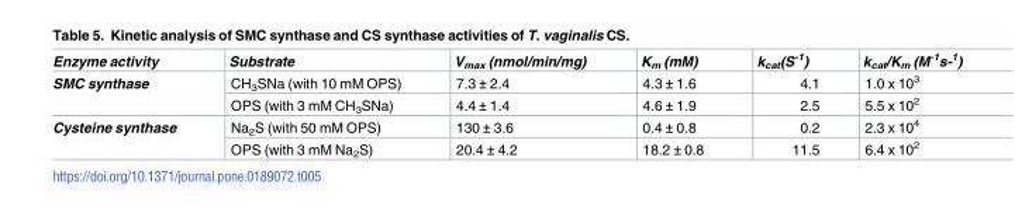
<table><thead><tr><td>Enzyme activity</td><td>Substrate</td><td>V<sub>max</sub> (nmol/min/mg)</td><td>K<sub>m</sub> (mM)</td><td>k<sub>cat</sub>(S<sup>-1</sup>)</td><td>k<sub>cat</sub>/K<sub>m</sub> (M<sup>-1</sup>s-<sup>1</sup>)</td></tr></thead><tbody><tr><td rowspan="2">SMC synthase</td><td>CH<sub>3</sub>SNa (with 10 mM OPS)</td><td>7.3 ± 2.4</td><td>4.3 ± 1.6</td><td>4.1</td><td>1.0 x 10<sup>3</sup></td></tr><tr><td>OPS (with 3 mM CH<sub>3</sub>SNa)</td><td>4.4 ± 1.4</td><td>4.6 ± 1.9</td><td>2.5</td><td>5.5 x 10<sup>2</sup></td></tr><tr><td rowspan="2">Cysteine synthase</td><td>Na<sub>2</sub>S (with 50 mM OPS)</td><td>130 ± 3.6</td><td>0.4 ± 0.8</td><td>0.2</td><td>2.3 x 10<sup>4</sup></td></tr><tr><td>OPS (with 3 mM Na<sub>2</sub>S)</td><td>20.4 ± 4.2</td><td>18.2 ± 0.8</td><td>11.5</td><td>6.4 x 10<sup>2</sup></td></tr></tbody></table>